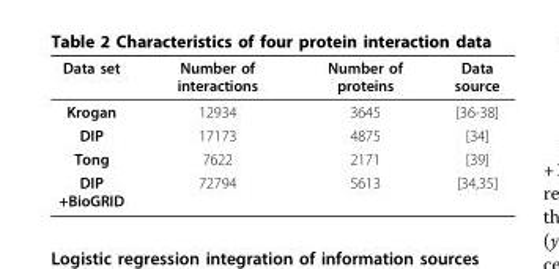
<table><thead><tr><td>Data set</td><td>Number of interactions</td><td>Number of proteins</td><td>Data source</td></tr></thead><tbody><tr><td>Krogan</td><td>12934</td><td>3645</td><td>[36-38]</td></tr><tr><td>DIP</td><td>17173</td><td>4875</td><td>[34]</td></tr><tr><td>Tong</td><td>7622</td><td>2171</td><td>[39]</td></tr><tr><td>DIP +BioGRID</td><td>72794</td><td>5613</td><td>[34,35]</td></tr></tbody></table>